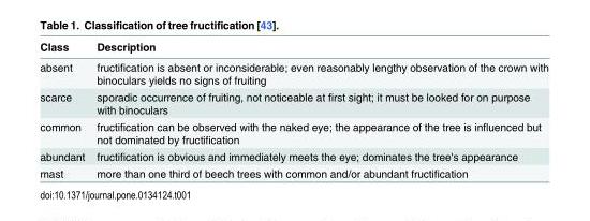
<table><thead><tr><td>Class</td><td>Description</td></tr></thead><tbody><tr><td>absent</td><td>fructification is absent or inconsiderable; even reasonably lengthy observation of the crown with binoculars yields no signs of fruiting</td></tr><tr><td>scarce</td><td>sporadic occurrence of fruiting, not noticeable at first sight; it must be looked for on purpose with binoculars</td></tr><tr><td>common</td><td>fructification can be observed with the naked eye; the appearance of the tree is influenced but not dominated by fructification</td></tr><tr><td>abundant</td><td>fructification is obvious and immediately meets the eye; dominates the tree&#x27;s appearance</td></tr><tr><td>mast</td><td>more than one third of beech trees with common and/or abundant fructification</td></tr></tbody></table>